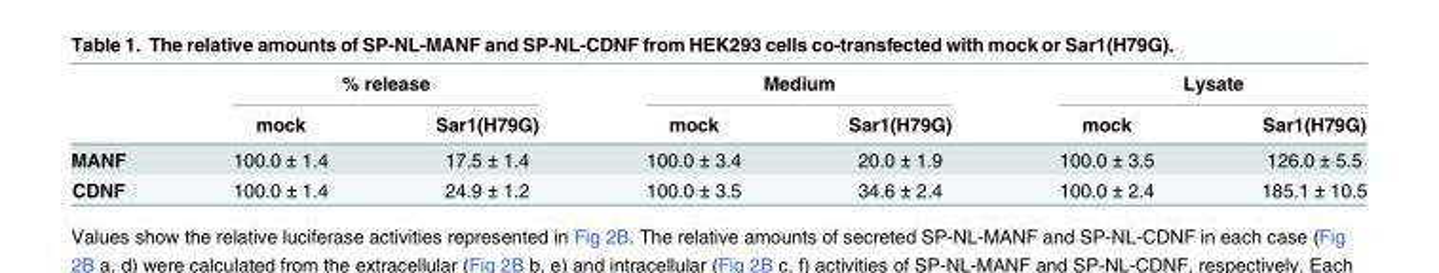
<table><thead><tr><td rowspan="2"></td><td colspan="2">% release</td><td colspan="2">Medium</td><td colspan="2">Lysate</td></tr><tr><td>mock</td><td>Sar1(H79G)</td><td>mock</td><td>Sar1(H79G)</td><td>mock</td><td>Sar1(H79G)</td></tr></thead><tbody><tr><td>MANF</td><td>100.0 ± 1.4</td><td>17.5 ± 1.4</td><td>100.0 ± 3.4</td><td>20.0 ± 1.9</td><td>100.0 ± 3.5</td><td>126.0 ± 5.5</td></tr><tr><td>CDNF</td><td>100.0 ± 1.4</td><td>24.9 ± 1.2</td><td>100.0 ± 3.5</td><td>34.6 ± 2.4</td><td>100.0 ± 2.4</td><td>185.1 ± 10.5</td></tr></tbody></table>